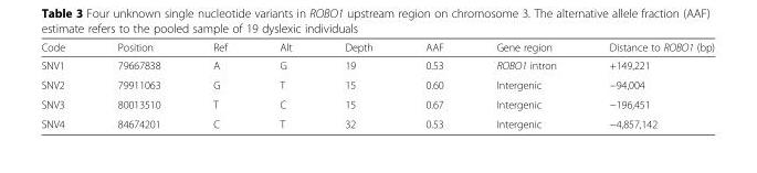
<table><thead><tr><td>Code</td><td>Position</td><td>Ref</td><td>Alt</td><td>Depth</td><td>AAF</td><td>Gene region</td><td>Distance to ROBO1 (bp)</td></tr></thead><tbody><tr><td>SNV1</td><td>79667838</td><td>A</td><td>G</td><td>19</td><td>0.53</td><td>ROBO1 intron</td><td>+149,221</td></tr><tr><td>SNV2</td><td>79911063</td><td>G</td><td>T</td><td>15</td><td>0.60</td><td>Intergenic</td><td>−94,004</td></tr><tr><td>SNV3</td><td>80013510</td><td>T</td><td>C</td><td>15</td><td>0.67</td><td>Intergenic</td><td>−196,451</td></tr><tr><td>SNV4</td><td>84674201</td><td>C</td><td>T</td><td>32</td><td>0.53</td><td>Intergenic</td><td>−4,857,142</td></tr></tbody></table>